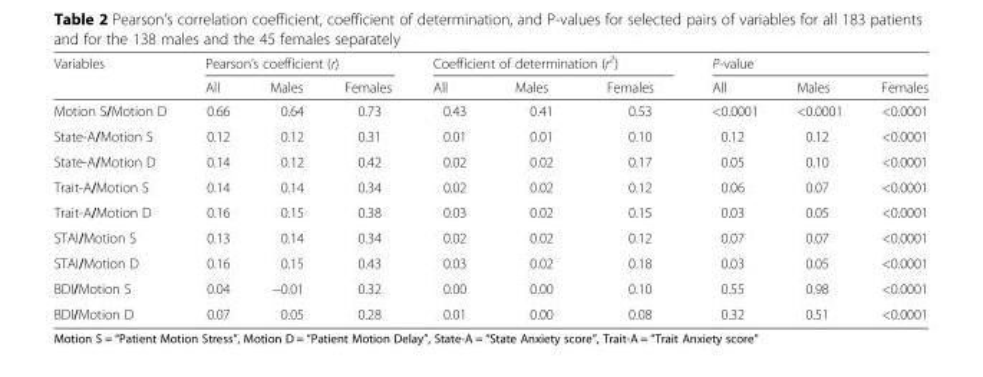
<table><thead><tr><td rowspan="2">Variables</td><td colspan="3">Pearson’s coefficient (r)</td><td colspan="3">Coefficient of determination (r<sup>2</sup>)</td><td colspan="3">P-value</td></tr><tr><td>All</td><td>Males</td><td>Females</td><td>All</td><td>Males</td><td>Females</td><td>All</td><td>Males</td><td>Females</td></tr></thead><tbody><tr><td>Motion S/Motion D</td><td>0.66</td><td>0.64</td><td>0.73</td><td>0.43</td><td>0.41</td><td>0.53</td><td>&lt;0.0001</td><td>&lt;0.0001</td><td>&lt;0.0001</td></tr><tr><td>State-A/Motion S</td><td>0.12</td><td>0.12</td><td>0.31</td><td>0.01</td><td>0.01</td><td>0.10</td><td>0.12</td><td>0.12</td><td>&lt;0.0001</td></tr><tr><td>State-A/Motion D</td><td>0.14</td><td>0.12</td><td>0.42</td><td>0.02</td><td>0.02</td><td>0.17</td><td>0.05</td><td>0.10</td><td>&lt;0.0001</td></tr><tr><td>Trait-A/Motion S</td><td>0.14</td><td>0.14</td><td>0.34</td><td>0.02</td><td>0.02</td><td>0.12</td><td>0.06</td><td>0.07</td><td>&lt;0.0001</td></tr><tr><td>Trait-A/Motion D</td><td>0.16</td><td>0.15</td><td>0.38</td><td>0.03</td><td>0.02</td><td>0.15</td><td>0.03</td><td>0.05</td><td>&lt;0.0001</td></tr><tr><td>STAI/Motion S</td><td>0.13</td><td>0.14</td><td>0.34</td><td>0.02</td><td>0.02</td><td>0.12</td><td>0.07</td><td>0.07</td><td>&lt;0.0001</td></tr><tr><td>STAI/Motion D</td><td>0.16</td><td>0.15</td><td>0.43</td><td>0.03</td><td>0.02</td><td>0.18</td><td>0.03</td><td>0.05</td><td>&lt;0.0001</td></tr><tr><td>BDI/Motion S</td><td>0.04</td><td>−0.01</td><td>0.32</td><td>0.00</td><td>0.00</td><td>0.10</td><td>0.55</td><td>0.98</td><td>&lt;0.0001</td></tr><tr><td>BDI/Motion D</td><td>0.07</td><td>0.05</td><td>0.28</td><td>0.01</td><td>0.00</td><td>0.08</td><td>0.32</td><td>0.51</td><td>&lt;0.0001</td></tr></tbody></table>